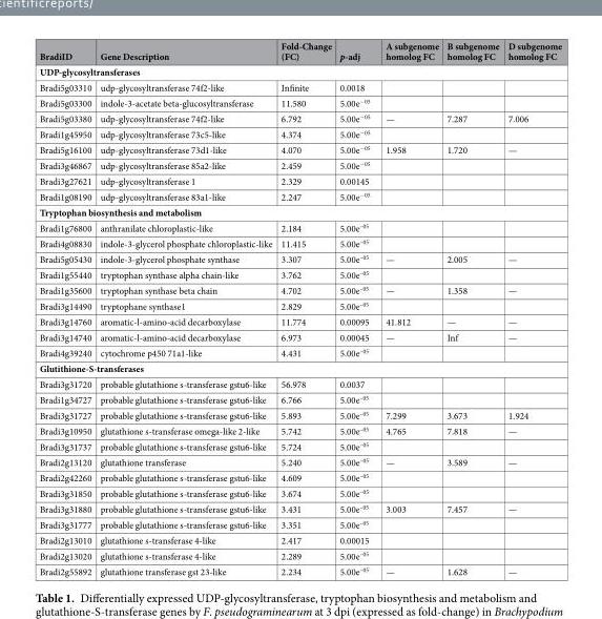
<table><thead><tr><td>BradiID</td><td>Gene Description</td><td>Fold-Change (FC)</td><td>p-adj</td><td>A subgenome homolog FC</td><td>B subgenome homolog FC</td><td>D subgenome homolog FC</td></tr></thead><tbody><tr><td colspan="7">UDP-glycosyltransferases</td></tr><tr><td>Bradi5g03310</td><td>udp-glycosyltransferase 74f2-like</td><td>Infinite</td><td>0.0018</td><td></td><td></td><td></td></tr><tr><td>Bradi5g03300</td><td>indole-3-acetate beta-glucosyltransferase</td><td>11.580</td><td>5.00e<sup>−05</sup></td><td></td><td></td><td></td></tr><tr><td>Bradi5g03380</td><td>udp-glycosyltransferase 74f2-like</td><td>6.792</td><td>5.00e<sup>−05</sup></td><td>—</td><td>7.287</td><td>7.006</td></tr><tr><td>Bradi1g45950</td><td>udp-glycosyltransferase 73c5-like</td><td>4.374</td><td>5.00e<sup>−05</sup></td><td></td><td></td><td></td></tr><tr><td>Bradi5g16100</td><td>udp-glycosyltransferase 73d1-like</td><td>4.070</td><td>5.00e<sup>−05</sup></td><td>1.958</td><td>1.720</td><td>—</td></tr><tr><td>Bradi3g46867</td><td>udp-glycosyltransferase 85a2-like</td><td>2.459</td><td>5.00e<sup>−05</sup></td><td></td><td></td><td></td></tr><tr><td>Bradi3g27621</td><td>udp-glycosyltransferase 1</td><td>2.329</td><td>0.00145</td><td></td><td></td><td></td></tr><tr><td>Bradi1g08190</td><td>udp-glycosyltransferase 83a1-like</td><td>2.247</td><td>5.00e<sup>−05</sup></td><td></td><td></td><td></td></tr><tr><td colspan="7">Tryptophan biosynthesis and metabolism</td></tr><tr><td>Bradi1g76800</td><td>anthranilate chloroplastic-like</td><td>2.184</td><td>5.00e<sup>–05</sup></td><td></td><td></td><td></td></tr><tr><td>Bradi4g08830</td><td>indole-3-glycerol phosphate chloroplastic-like</td><td>11.415</td><td>5.00e<sup>–05</sup></td><td></td><td></td><td></td></tr><tr><td>Bradi5g05430</td><td>indole-3-glycerol phosphate synthase</td><td>3.307</td><td>5.00e<sup>–05</sup></td><td>—</td><td>2.005</td><td>—</td></tr><tr><td>Bradi1g55440</td><td>tryptophan synthase alpha chain-like</td><td>3.762</td><td>5.00e<sup>–05</sup></td><td></td><td></td><td></td></tr><tr><td>Bradi1g35600</td><td>tryptophan synthase beta chain</td><td>4.702</td><td>5.00e<sup>–05</sup></td><td>—</td><td>1.358</td><td>—</td></tr><tr><td>Bradi3g14490</td><td>tryptophane synthase1</td><td>2.829</td><td>5.00e<sup>–05</sup></td><td></td><td></td><td></td></tr><tr><td>Bradi3g14760</td><td>aromatic-l-amino-acid decarboxylase</td><td>11.774</td><td>0.00095</td><td>41.812</td><td>—</td><td>—</td></tr><tr><td>Bradi3g14740</td><td>aromatic-l-amino-acid decarboxylase</td><td>6.973</td><td>0.00045</td><td>—</td><td>Inf</td><td>—</td></tr><tr><td>Bradi4g39240</td><td>cytochrome p450 71a1-like</td><td>4.431</td><td>5.00e<sup>–05</sup></td><td></td><td></td><td></td></tr><tr><td colspan="7">Glutithione-S-transferases</td></tr><tr><td>Bradi3g31720</td><td>probable glutathione s-transferase gstu6-like</td><td>56.978</td><td>0.0037</td><td></td><td></td><td></td></tr><tr><td>Bradi1g34727</td><td>probable glutathione s-transferase gstu6-like</td><td>6.766</td><td>5.00e<sup>–05</sup></td><td></td><td></td><td></td></tr><tr><td>Bradi3g31727</td><td>probable glutathione s-transferase gstu6-like</td><td>5.893</td><td>5.00e<sup>–05</sup></td><td>7.299</td><td>3.673</td><td>1.924</td></tr><tr><td>Bradi3g10950</td><td>glutathione s-transferase omega-like 2-like</td><td>5.742</td><td>5.00e<sup>–05</sup></td><td>4.765</td><td>7.818</td><td>—</td></tr><tr><td>Bradi3g31737</td><td>probable glutathione s-transferase gstu6-like</td><td>5.724</td><td>5.00e<sup>–05</sup></td><td></td><td></td><td></td></tr><tr><td>Bradi2g13120</td><td>glutathione transferase</td><td>5.240</td><td>5.00e<sup>–05</sup></td><td>—</td><td>3.589</td><td>—</td></tr><tr><td>Bradi2g42260</td><td>probable glutathione s-transferase gstu6-like</td><td>4.609</td><td>5.00e<sup>–05</sup></td><td></td><td></td><td></td></tr><tr><td>Bradi3g31850</td><td>probable glutathione s-transferase gstu6-like</td><td>3.674</td><td>5.00e<sup>–05</sup></td><td></td><td></td><td></td></tr><tr><td>Bradi3g31880</td><td>probable glutathione s-transferase gstu6-like</td><td>3.431</td><td>5.00e<sup>–05</sup></td><td>3.003</td><td>7.457</td><td>—</td></tr><tr><td>Bradi3g31777</td><td>probable glutathione s-transferase gstu6-like</td><td>3.351</td><td>5.00e<sup>–05</sup></td><td></td><td></td><td></td></tr><tr><td>Bradi2g13010</td><td>glutathione s-transferase 4-like</td><td>2.417</td><td>0.00015</td><td></td><td></td><td></td></tr><tr><td>Bradi2g13020</td><td>glutathione s-transferase 4-like</td><td>2.289</td><td>5.00e<sup>–05</sup></td><td></td><td></td><td></td></tr><tr><td>Bradi2g55892</td><td>glutathione transferase gst 23-like</td><td>2.234</td><td>5.00e<sup>–05</sup></td><td>—</td><td>1.628</td><td>—</td></tr></tbody></table>